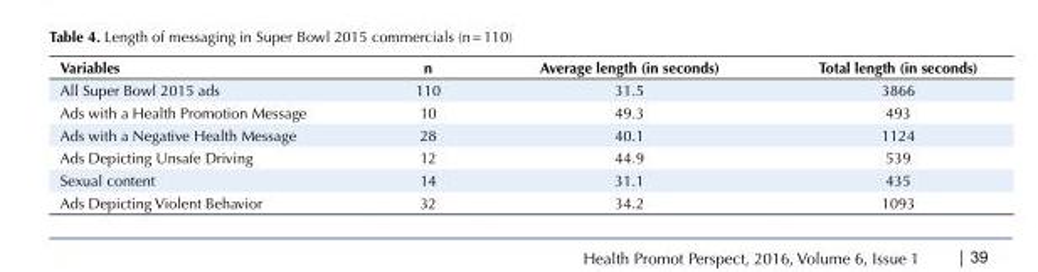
<table><tbody><tr><td>Variables</td><td>n</td><td>Average length (in seconds)</td><td>Total length (in seconds)</td></tr><tr><td>All Super Bowl 2015 ads</td><td>110</td><td>31.5</td><td>3866</td></tr><tr><td>Ads with a Health Promotion Message</td><td>10</td><td>49.3</td><td>493</td></tr><tr><td>Ads with a Negative Health Message</td><td>28</td><td>40.1</td><td>1124</td></tr><tr><td>Ads Depicting Unsafe Driving</td><td>12</td><td>44.9</td><td>539</td></tr><tr><td>Sexual content</td><td>14</td><td>31.1</td><td>435</td></tr><tr><td>Ads Depicting Violent Behavior</td><td>32</td><td>34.2</td><td>1093</td></tr></tbody></table>